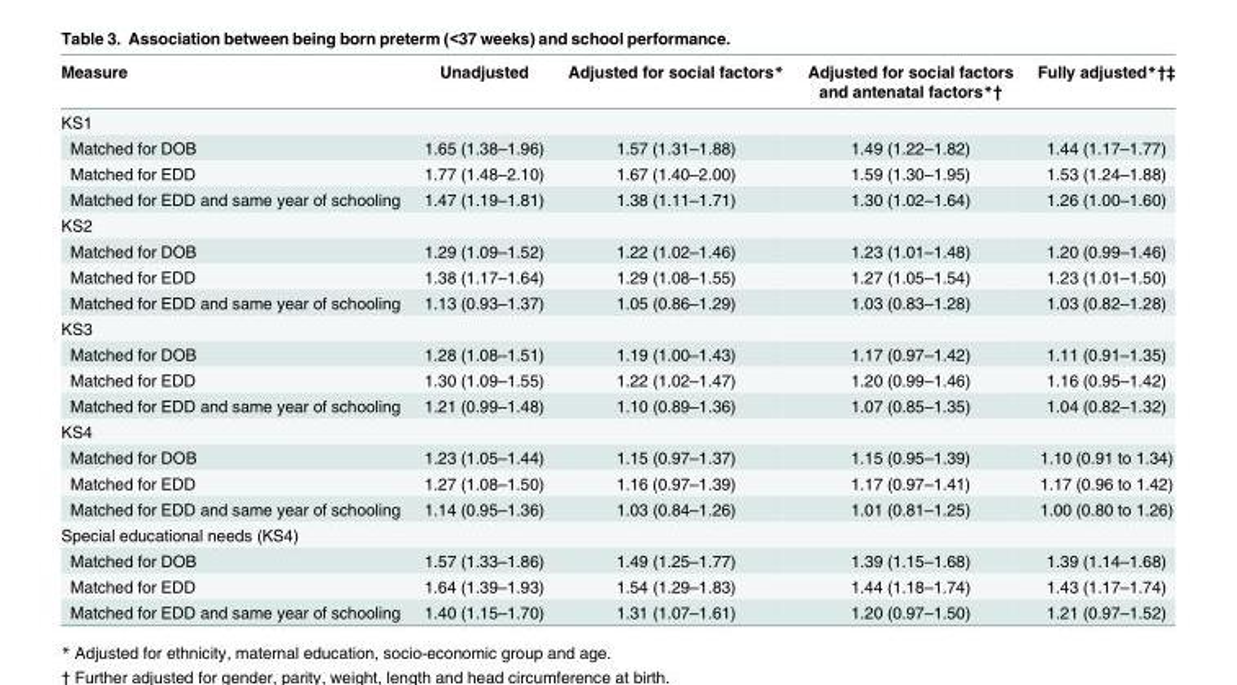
<table><thead><tr><td>Measure</td><td>Unadjusted</td><td>Adjusted for social factors*</td><td>Adjusted for social factors and antenatal factors*†</td><td>Fully adjusted*†‡</td></tr></thead><tbody><tr><td colspan="5">KS1</td></tr><tr><td>Matched for DOB</td><td>1.65 (1.38–1.96)</td><td>1.57 (1.31–1.88)</td><td>1.49 (1.22–1.82)</td><td>1.44 (1.17–1.77)</td></tr><tr><td>Matched for EDD</td><td>1.77 (1.48–2.10)</td><td>1.67 (1.40–2.00)</td><td>1.59 (1.30–1.95)</td><td>1.53 (1.24–1.88)</td></tr><tr><td>Matched for EDD and same year of schooling</td><td>1.47 (1.19–1.81)</td><td>1.38 (1.11–1.71)</td><td>1.30 (1.02–1.64)</td><td>1.26 (1.00–1.60)</td></tr><tr><td colspan="5">KS2</td></tr><tr><td>Matched for DOB</td><td>1.29 (1.09–1.52)</td><td>1.22 (1.02–1.46)</td><td>1.23 (1.01–1.48)</td><td>1.20 (0.99–1.46)</td></tr><tr><td>Matched for EDD</td><td>1.38 (1.17–1.64)</td><td>1.29 (1.08–1.55)</td><td>1.27 (1.05–1.54)</td><td>1.23 (1.01–1.50)</td></tr><tr><td>Matched for EDD and same year of schooling</td><td>1.13 (0.93–1.37)</td><td>1.05 (0.86–1.29)</td><td>1.03 (0.83–1.28)</td><td>1.03 (0.82–1.28)</td></tr><tr><td colspan="5">KS3</td></tr><tr><td>Matched for DOB</td><td>1.28 (1.08–1.51)</td><td>1.19 (1.00–1.43)</td><td>1.17 (0.97–1.42)</td><td>1.11 (0.91–1.35)</td></tr><tr><td>Matched for EDD</td><td>1.30 (1.09–1.55)</td><td>1.22 (1.02–1.47)</td><td>1.20 (0.99–1.46)</td><td>1.16 (0.95–1.42)</td></tr><tr><td>Matched for EDD and same year of schooling</td><td>1.21 (0.99–1.48)</td><td>1.10 (0.89–1.36)</td><td>1.07 (0.85–1.35)</td><td>1.04 (0.82–1.32)</td></tr><tr><td colspan="5">KS4</td></tr><tr><td>Matched for DOB</td><td>1.23 (1.05–1.44)</td><td>1.15 (0.97–1.37)</td><td>1.15 (0.95–1.39)</td><td>1.10 (0.91 to 1.34)</td></tr><tr><td>Matched for EDD</td><td>1.27 (1.08–1.50)</td><td>1.16 (0.97–1.39)</td><td>1.17 (0.97–1.41)</td><td>1.17 (0.96 to 1.42)</td></tr><tr><td>Matched for EDD and same year of schooling</td><td>1.14 (0.95–1.36)</td><td>1.03 (0.84–1.26)</td><td>1.01 (0.81–1.25)</td><td>1.00 (0.80 to 1.26)</td></tr><tr><td colspan="5">Special educational needs (KS4)</td></tr><tr><td>Matched for DOB</td><td>1.57 (1.33–1.86)</td><td>1.49 (1.25–1.77)</td><td>1.39 (1.15–1.68)</td><td>1.39 (1.14–1.68)</td></tr><tr><td>Matched for EDD</td><td>1.64 (1.39–1.93)</td><td>1.54 (1.29–1.83)</td><td>1.44 (1.18–1.74)</td><td>1.43 (1.17–1.74)</td></tr><tr><td>Matched for EDD and same year of schooling</td><td>1.40 (1.15–1.70)</td><td>1.31 (1.07–1.61)</td><td>1.20 (0.97–1.50)</td><td>1.21 (0.97–1.52)</td></tr></tbody></table>